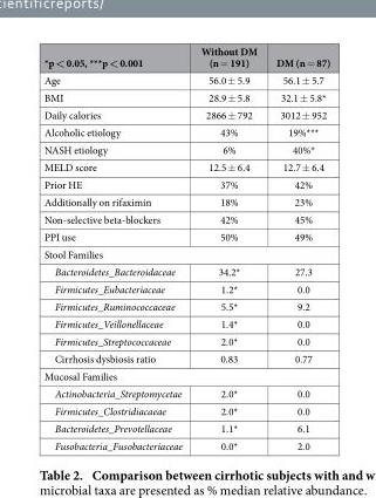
<table><thead><tr><td>*p &lt; 0.05, ***p &lt; 0.001</td><td>Without DM (n = 191)</td><td>DM (n = 87)</td></tr></thead><tbody><tr><td>Age</td><td>56.0 ± 5.9</td><td>56.1 ± 5.7</td></tr><tr><td>BMI</td><td>28.9 ± 5.8</td><td>32.1 ± 5.8*</td></tr><tr><td>Daily calories</td><td>2866 ± 792</td><td>3012 ± 952</td></tr><tr><td>Alcoholic etiology</td><td>43%</td><td>19%***</td></tr><tr><td>NASH etiology</td><td>6%</td><td>40%*</td></tr><tr><td>MELD score</td><td>12.5 ± 6.4</td><td>12.7 ± 6.4</td></tr><tr><td>Prior HE</td><td>37%</td><td>42%</td></tr><tr><td>Additionally on rifaximin</td><td>18%</td><td>23%</td></tr><tr><td>Non-selective beta-blockers</td><td>42%</td><td>45%</td></tr><tr><td>PPI use</td><td>50%</td><td>49%</td></tr><tr><td colspan="3">Stool Families</td></tr><tr><td>Bacteroidetes_Bacteroidaceae</td><td>34.2*</td><td>27.3</td></tr><tr><td>Firmicutes_Eubacteriaceae</td><td>1.2*</td><td>0.0</td></tr><tr><td>Firmicutes_Ruminococcaceae</td><td>5.5*</td><td>9.2</td></tr><tr><td>Firmicutes_Veillonellaceae</td><td>1.4*</td><td>0.0</td></tr><tr><td>Firmicutes_Streptococcaceae</td><td>2.0*</td><td>0.0</td></tr><tr><td>Cirrhosis dysbiosis ratio</td><td>0.83</td><td>0.77</td></tr><tr><td colspan="3">Mucosal Families</td></tr><tr><td>Actinobacteria_Streptomycetae</td><td>2.0*</td><td>0.0</td></tr><tr><td>Firmicutes_Clostridiacaeae</td><td>2.0*</td><td>0.0</td></tr><tr><td>Bacteroidetes_Prevotellaceae</td><td>1.1*</td><td>6.1</td></tr><tr><td>Fusobacteria_Fusobacteriaceae</td><td>0.0*</td><td>2.0</td></tr></tbody></table>